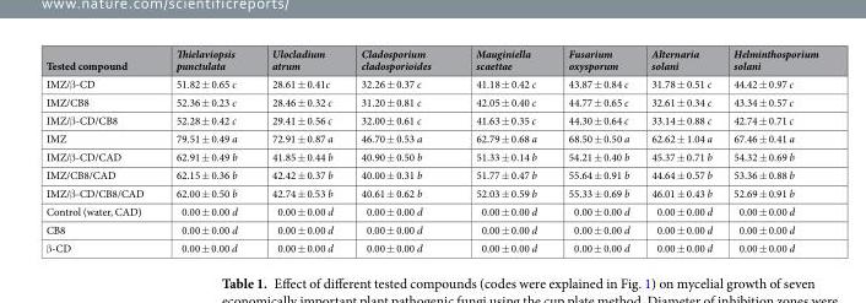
<table><thead><tr><td>Tested compound</td><td>Thielaviopsis punctulata</td><td>Ulocladium atrum</td><td>Cladosporium cladosporioides</td><td>Mauginiella scaettae</td><td>Fusarium oxysporum</td><td>Alternaria solani</td><td>Helminthosporium solani</td></tr></thead><tbody><tr><td>IMZ/β-CD</td><td>51.82 ± 0.65 c</td><td>28.61 ± 0.41c</td><td>32.26 ± 0.37 c</td><td>41.18 ± 0.42 c</td><td>43.87 ± 0.84 c</td><td>31.78 ± 0.51 c</td><td>44.42 ± 0.97 c</td></tr><tr><td>IMZ/CB8</td><td>52.36 ± 0.23 c</td><td>28.46 ± 0.32 c</td><td>31.20 ± 0.81 c</td><td>42.05 ± 0.40 c</td><td>44.77 ± 0.65 c</td><td>32.61 ± 0.34 c</td><td>43.34 ± 0.57 c</td></tr><tr><td>IMZ/β-CD/CB8</td><td>52.28 ± 0.42 c</td><td>29.41 ± 0.56 c</td><td>32.00 ± 0.61 c</td><td>41.63 ± 0.35 c</td><td>44.30 ± 0.64 c</td><td>33.14 ± 0.88 c</td><td>42.74 ± 0.71 c</td></tr><tr><td>IMZ</td><td>79.51 ± 0.49 a</td><td>72.91 ± 0.87 a</td><td>46.70 ± 0.53 a</td><td>62.79 ± 0.68 a</td><td>68.50 ± 0.50 a</td><td>62.62 ± 1.04 a</td><td>67.46 ± 0.41 a</td></tr><tr><td>IMZ/β-CD/CAD</td><td>62.91 ± 0.49 b</td><td>41.85 ± 0.44 b</td><td>40.90 ± 0.50 b</td><td>51.33 ± 0.14 b</td><td>54.21 ± 0.40 b</td><td>45.37 ± 0.71 b</td><td>54.32 ± 0.69 b</td></tr><tr><td>IMZ/CB8/CAD</td><td>62.15 ± 0.36 b</td><td>42.42 ± 0.37 b</td><td>40.00 ± 0.31 b</td><td>51.77 ± 0.47 b</td><td>55.64 ± 0.91 b</td><td>44.64 ± 0.57 b</td><td>53.36 ± 0.88 b</td></tr><tr><td>IMZ/β-CD/CB8/CAD</td><td>62.00 ± 0.50 b</td><td>42.74 ± 0.53 b</td><td>40.61 ± 0.62 b</td><td>52.03 ± 0.59 b</td><td>55.33 ± 0.69 b</td><td>46.01 ± 0.43 b</td><td>52.69 ± 0.91 b</td></tr><tr><td>Control (water, CAD)</td><td>0.00 ± 0.00 d</td><td>0.00 ± 0.00 d</td><td>0.00 ± 0.00 d</td><td>0.00 ± 0.00 d</td><td>0.00 ± 0.00 d</td><td>0.00 ± 0.00 d</td><td>0.00 ± 0.00 d</td></tr><tr><td>CB8</td><td>0.00 ± 0.00 d</td><td>0.00 ± 0.00 d</td><td>0.00 ± 0.00 d</td><td>0.00 ± 0.00 d</td><td>0.00 ± 0.00 d</td><td>0.00 ± 0.00 d</td><td>0.00 ± 0.00 d</td></tr><tr><td>β-CD</td><td>0.00 ± 0.00 d</td><td>0.00 ± 0.00 d</td><td>0.00 ± 0.00 d</td><td>0.00 ± 0.00 d</td><td>0.00 ± 0.00 d</td><td>0.00 ± 0.00 d</td><td>0.00 ± 0.00 d</td></tr></tbody></table>